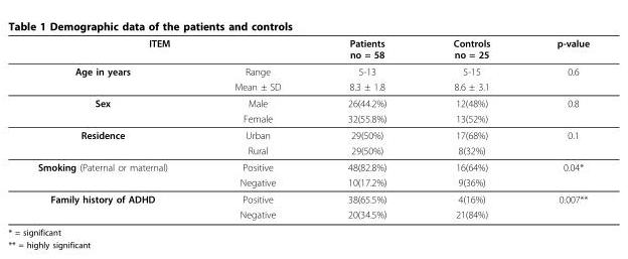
<table><thead><tr><td colspan="2">ITEM</td><td rowspan="2">Patients no = 58 5-13</td><td rowspan="2">Controls no = 25 5-15</td><td rowspan="2">p-value 0.6</td></tr><tr><td>Age in years</td><td>Range</td></tr></thead><tbody><tr><td></td><td>Mean ± SD</td><td>8.3 ± 1.8</td><td>8.6 ± 3.1</td><td></td></tr><tr><td rowspan="2">Sex</td><td>Male</td><td>26(44.2%)</td><td>12(48%)</td><td>0.8</td></tr><tr><td>Female</td><td>32(55.8%)</td><td>13(52%)</td><td></td></tr><tr><td rowspan="2">Residence</td><td>Urban</td><td>29(50%)</td><td>17(68%)</td><td>0.1</td></tr><tr><td>Rural</td><td>29(50%)</td><td>8(32%)</td><td></td></tr><tr><td rowspan="2">Smoking (Paternal or maternal)</td><td>Positive</td><td>48(82.8%)</td><td>16(64%)</td><td>0.04*</td></tr><tr><td>Negative</td><td>10(17.2%)</td><td>9(36%)</td><td></td></tr><tr><td rowspan="2">Family history of ADHD</td><td>Positive</td><td>38(65.5%)</td><td>4(16%)</td><td>0.007**</td></tr><tr><td>Negative</td><td>20(34.5%)</td><td>21(84%)</td><td></td></tr></tbody></table>